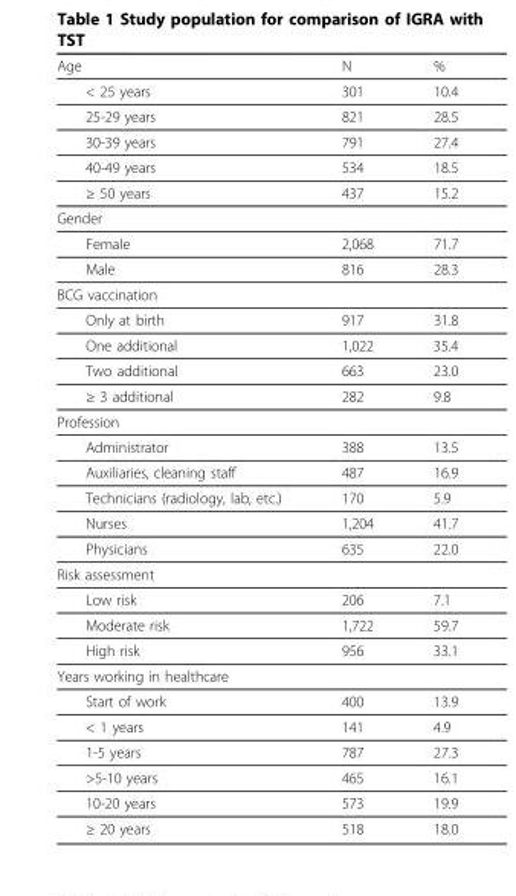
<table><thead><tr><td>Age</td><td>N</td><td>%</td></tr></thead><tbody><tr><td>&lt; 25 years</td><td>301</td><td>10.4</td></tr><tr><td>25-29 years</td><td>821</td><td>28.5</td></tr><tr><td>30-39 years</td><td>791</td><td>27.4</td></tr><tr><td>40-49 years</td><td>534</td><td>18.5</td></tr><tr><td>≥ 50 years</td><td>437</td><td>15.2</td></tr><tr><td colspan="3">Gender</td></tr><tr><td>Female</td><td>2,068</td><td>71.7</td></tr><tr><td>Male</td><td>816</td><td>28.3</td></tr><tr><td colspan="3">BCG vaccination</td></tr><tr><td>Only at birth</td><td>917</td><td>31.8</td></tr><tr><td>One additional</td><td>1,022</td><td>35.4</td></tr><tr><td>Two additional</td><td>663</td><td>23.0</td></tr><tr><td>≥ 3 additional</td><td>282</td><td>9.8</td></tr><tr><td colspan="3">Profession</td></tr><tr><td>Administrator</td><td>388</td><td>13.5</td></tr><tr><td>Auxiliaries, cleaning staff</td><td>487</td><td>16.9</td></tr><tr><td>Technicians (radiology, lab, etc.)</td><td>170</td><td>5.9</td></tr><tr><td>Nurses</td><td>1,204</td><td>41.7</td></tr><tr><td>Physicians</td><td>635</td><td>22.0</td></tr><tr><td colspan="3">Risk assessment</td></tr><tr><td>Low risk</td><td>206</td><td>7.1</td></tr><tr><td>Moderate risk</td><td>1,722</td><td>59.7</td></tr><tr><td>High risk</td><td>956</td><td>33.1</td></tr><tr><td colspan="3">Years working in healthcare</td></tr><tr><td>Start of work</td><td>400</td><td>13.9</td></tr><tr><td>&lt; 1 years</td><td>141</td><td>4.9</td></tr><tr><td>1-5 years</td><td>787</td><td>27.3</td></tr><tr><td>&gt;5-10 years</td><td>465</td><td>16.1</td></tr><tr><td>10-20 years</td><td>573</td><td>19.9</td></tr><tr><td>≥ 20 years</td><td>518</td><td>18.0</td></tr></tbody></table>